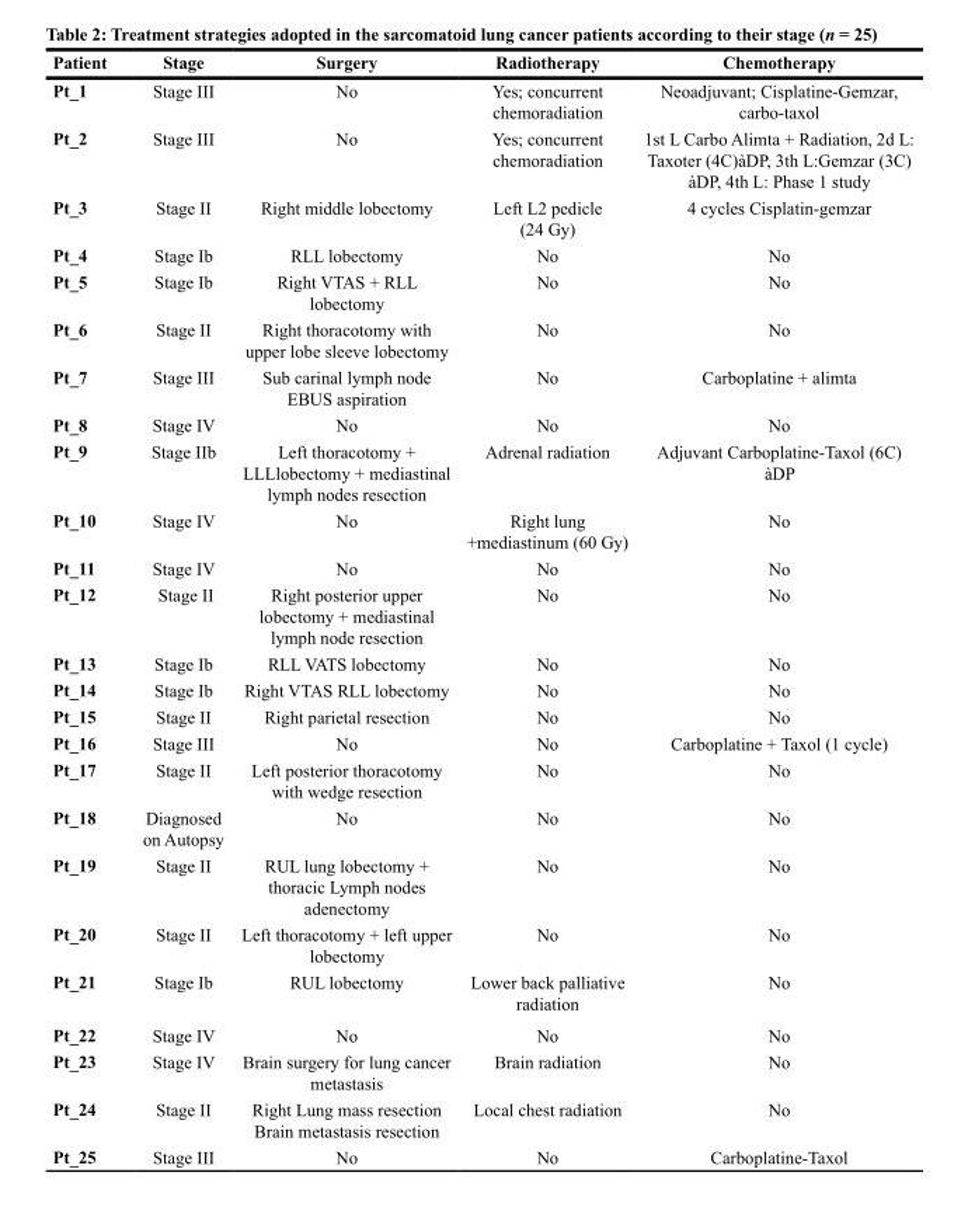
<table><thead><tr><td>Patient</td><td>Stage</td><td>Surgery</td><td>Radiotherapy</td><td>Chemotherapy</td></tr></thead><tbody><tr><td>Pt_1</td><td>Stage III</td><td>No</td><td>Yes; concurrent chemoradiation</td><td>Neoadjuvant; Cisplatine-Gemzar, carbo-taxol</td></tr><tr><td>Pt_2</td><td>Stage III</td><td>No</td><td>Yes; concurrent chemoradiation</td><td>1st L Carbo Alimta + Radiation, 2d L: Taxoter (4C)àDP, 3th L:Gemzar (3C) àDP, 4th L: Phase 1 study</td></tr><tr><td>Pt_3</td><td>Stage II</td><td>Right middle lobectomy</td><td>Left L2 pedicle (24 Gy)</td><td>4 cycles Cisplatin-gemzar</td></tr><tr><td>Pt_4</td><td>Stage Ib</td><td>RLL lobectomy</td><td>No</td><td>No</td></tr><tr><td>Pt_5</td><td>Stage Ib</td><td>Right VTAS + RLL lobectomy</td><td>No</td><td>No</td></tr><tr><td>Pt_6</td><td>Stage II</td><td>Right thoracotomy with upper lobe sleeve lobectomy</td><td>No</td><td>No</td></tr><tr><td>Pt_7</td><td>Stage III</td><td>Sub carinal lymph node EBUS aspiration</td><td>No</td><td>Carboplatine + alimta</td></tr><tr><td>Pt_8</td><td>Stage IV</td><td>No</td><td>No</td><td>No</td></tr><tr><td>Pt_9</td><td>Stage IIb</td><td>Left thoracotomy + LLLlobectomy + mediastinal lymph nodes resection</td><td>Adrenal radiation</td><td>Adjuvant Carboplatine-Taxol (6C) àDP</td></tr><tr><td>Pt_10</td><td>Stage IV</td><td>No</td><td>Right lung +mediastinum (60 Gy)</td><td>No</td></tr><tr><td>Pt_11</td><td>Stage IV</td><td>No</td><td>No</td><td>No</td></tr><tr><td>Pt_12</td><td>Stage II</td><td>Right posterior upper lobectomy + mediastinal lymph node resection</td><td>No</td><td>No</td></tr><tr><td>Pt_13</td><td>Stage Ib</td><td>RLL VATS lobectomy</td><td>No</td><td>No</td></tr><tr><td>Pt_14</td><td>Stage Ib</td><td>Right VTAS RLL lobectomy</td><td>No</td><td>No</td></tr><tr><td>Pt_15</td><td>Stage II</td><td>Right parietal resection</td><td>No</td><td>No</td></tr><tr><td>Pt_16</td><td>Stage III</td><td>No</td><td>No</td><td>Carboplatine + Taxol (1 cycle)</td></tr><tr><td>Pt_17</td><td>Stage II</td><td>Left posterior thoracotomy with wedge resection</td><td>No</td><td>No</td></tr><tr><td>Pt_18</td><td>Diagnosed on Autopsy</td><td>No</td><td>No</td><td>No</td></tr><tr><td>Pt_19</td><td>Stage II</td><td>RUL lung lobectomy + thoracic Lymph nodes adenectomy</td><td>No</td><td>No</td></tr><tr><td>Pt_20</td><td>Stage II</td><td>Left thoracotomy + left upper lobectomy</td><td>No</td><td>No</td></tr><tr><td>Pt_21</td><td>Stage Ib</td><td>RUL lobectomy</td><td>Lower back palliative radiation</td><td>No</td></tr><tr><td>Pt_22</td><td>Stage IV</td><td>No</td><td>No</td><td>No</td></tr><tr><td>Pt_23</td><td>Stage IV</td><td>Brain surgery for lung cancer metastasis</td><td>Brain radiation</td><td>No</td></tr><tr><td>Pt_24</td><td>Stage II</td><td>Right Lung mass resection Brain metastasis resection</td><td>Local chest radiation</td><td>No</td></tr><tr><td>Pt_25</td><td>Stage III</td><td>No</td><td>No</td><td>Carboplatine-Taxol</td></tr></tbody></table>